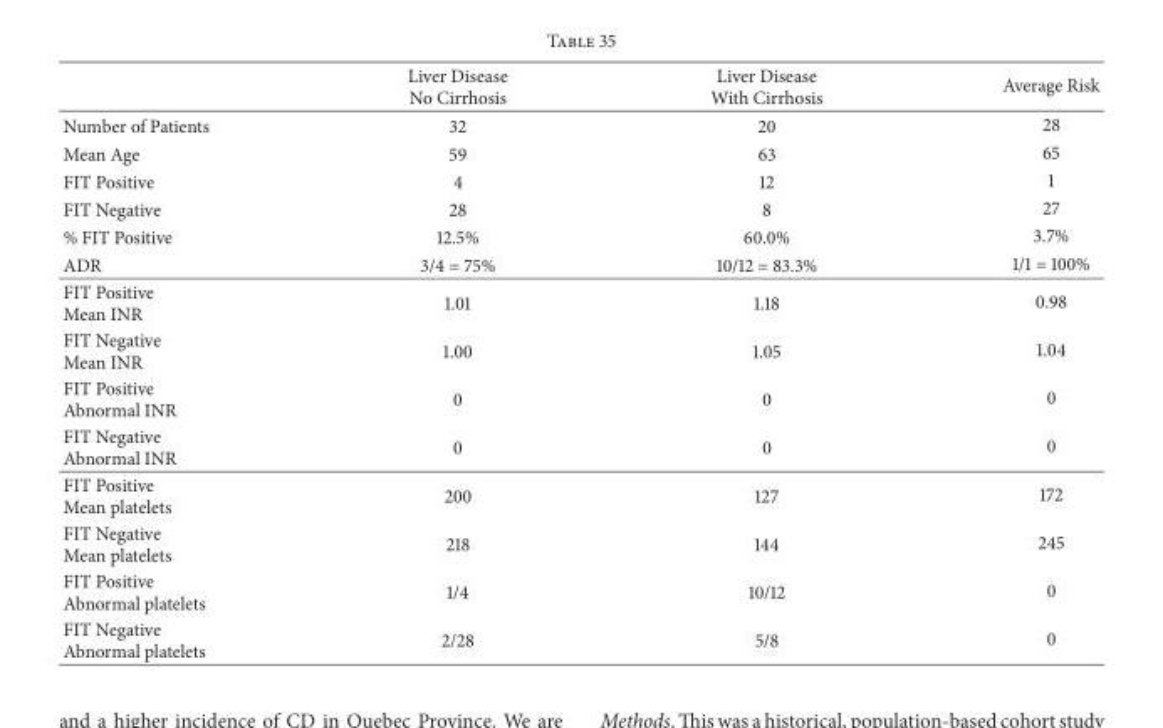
<table><thead><tr><td></td><td>Liver Disease No Cirrhosis</td><td>Liver Disease With Cirrhosis</td><td>Average Risk</td></tr></thead><tbody><tr><td>Number of Patients</td><td>32</td><td>20</td><td>28</td></tr><tr><td>Mean Age</td><td>59</td><td>63</td><td>65</td></tr><tr><td>FIT Positive</td><td>4</td><td>12</td><td>1</td></tr><tr><td>FIT Negative</td><td>28</td><td>8</td><td>27</td></tr><tr><td>% FIT Positive</td><td>12.5%</td><td>60.0%</td><td>3.7%</td></tr><tr><td>ADR</td><td>3/4 = 75%</td><td>10/12 = 83.3%</td><td>1/1 = 100%</td></tr><tr><td>FIT Positive Mean INR</td><td>1.01</td><td>1.18</td><td>0.98</td></tr><tr><td>FIT Negative Mean INR</td><td>1.00</td><td>1.05</td><td>1.04</td></tr><tr><td>FIT Positive Abnormal INR</td><td>0</td><td>0</td><td>0</td></tr><tr><td>FIT Negative Abnormal INR</td><td>0</td><td>0</td><td>0</td></tr><tr><td>FIT Positive Mean platelets</td><td>200</td><td>127</td><td>172</td></tr><tr><td>FIT Negative Mean platelets</td><td>218</td><td>144</td><td>245</td></tr><tr><td>FIT Positive Abnormal platelets</td><td>1/4</td><td>10/12</td><td>0</td></tr><tr><td>FIT Negative Abnormal platelets</td><td>2/28</td><td>5/8</td><td>0</td></tr></tbody></table>